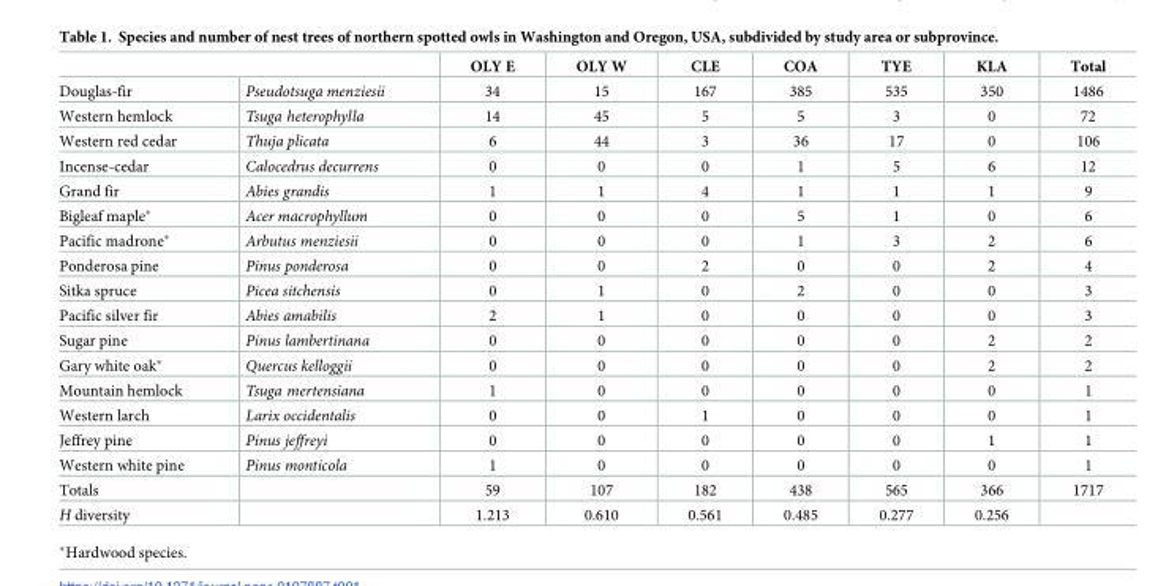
<table><thead><tr><td></td><td></td><td>OLY E</td><td>OLY W</td><td>CLE</td><td>COA</td><td>TYE</td><td>KLA</td><td>Total</td></tr></thead><tbody><tr><td>Douglas-fir</td><td>Pseudotsuga menziesii</td><td>34</td><td>15</td><td>167</td><td>385</td><td>535</td><td>350</td><td>1486</td></tr><tr><td>Western hemlock</td><td>Tsuga heterophylla</td><td>14</td><td>45</td><td>5</td><td>5</td><td>3</td><td>0</td><td>72</td></tr><tr><td>Western red cedar</td><td>Thuja plicata</td><td>6</td><td>44</td><td>3</td><td>36</td><td>17</td><td>0</td><td>106</td></tr><tr><td>Incense-cedar</td><td>Calocedrus decurrens</td><td>0</td><td>0</td><td>0</td><td>1</td><td>5</td><td>6</td><td>12</td></tr><tr><td>Grand fir</td><td>Abies grandis</td><td>1</td><td>1</td><td>4</td><td>1</td><td>1</td><td>1</td><td>9</td></tr><tr><td>Bigleaf maple*</td><td>Acer macrophyllum</td><td>0</td><td>0</td><td>0</td><td>5</td><td>1</td><td>0</td><td>6</td></tr><tr><td>Pacific madrone*</td><td>Arbutus menziesii</td><td>0</td><td>0</td><td>0</td><td>1</td><td>3</td><td>2</td><td>6</td></tr><tr><td>Ponderosa pine</td><td>Pinus ponderosa</td><td>0</td><td>0</td><td>2</td><td>0</td><td>0</td><td>2</td><td>4</td></tr><tr><td>Sitka spruce</td><td>Picea sitchensis</td><td>0</td><td>1</td><td>0</td><td>2</td><td>0</td><td>0</td><td>3</td></tr><tr><td>Pacific silver fir</td><td>Abies amabilis</td><td>2</td><td>1</td><td>0</td><td>0</td><td>0</td><td>0</td><td>3</td></tr><tr><td>Sugar pine</td><td>Pinus lambertinana</td><td>0</td><td>0</td><td>0</td><td>0</td><td>0</td><td>2</td><td>2</td></tr><tr><td>Gary white oak*</td><td>Quercus kelloggii</td><td>0</td><td>0</td><td>0</td><td>0</td><td>0</td><td>2</td><td>2</td></tr><tr><td>Mountain hemlock</td><td>Tsuga mertensiana</td><td>1</td><td>0</td><td>0</td><td>0</td><td>0</td><td>0</td><td>1</td></tr><tr><td>Western larch</td><td>Larix occidentalis</td><td>0</td><td>0</td><td>1</td><td>0</td><td>0</td><td>0</td><td>1</td></tr><tr><td>Jeffrey pine</td><td>Pinus jeffreyi</td><td>0</td><td>0</td><td>0</td><td>0</td><td>0</td><td>1</td><td>1</td></tr><tr><td>Western white pine</td><td>Pinus monticola</td><td>1</td><td>0</td><td>0</td><td>0</td><td>0</td><td>0</td><td>1</td></tr><tr><td>Totals</td><td></td><td>59</td><td>107</td><td>182</td><td>438</td><td>565</td><td>366</td><td>1717</td></tr><tr><td>H diversity</td><td></td><td>1.213</td><td>0.610</td><td>0.561</td><td>0.485</td><td>0.277</td><td>0.256</td><td></td></tr></tbody></table>